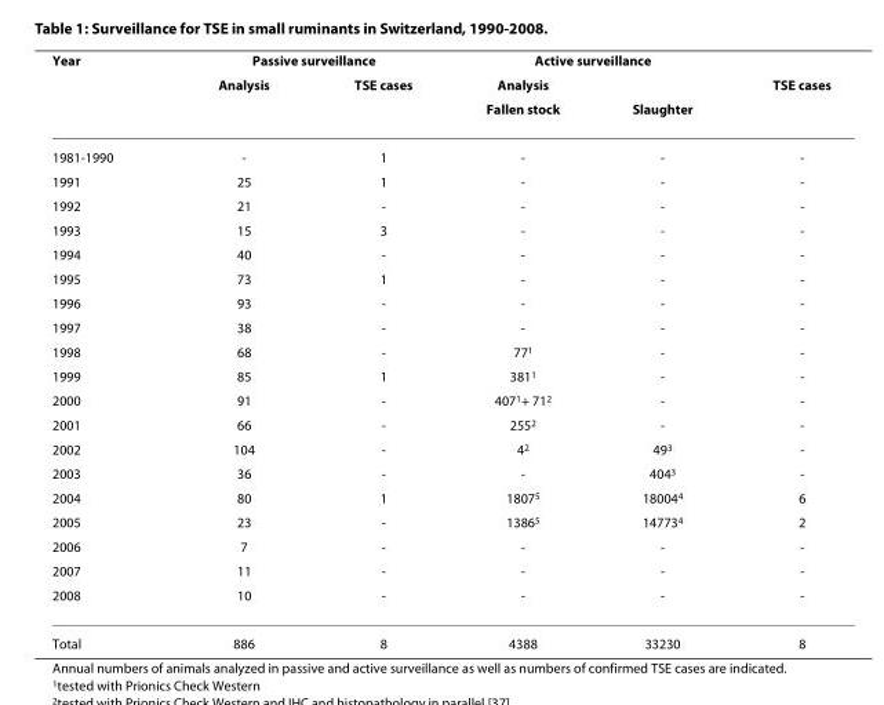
<table><thead><tr><td rowspan="3">Year</td><td colspan="2">Passive surveillance</td><td colspan="2">Active surveillance</td><td rowspan="3">TSE cases</td></tr><tr><td rowspan="2">Analysis</td><td rowspan="2">TSE cases</td><td rowspan="2">Analysis Fallen stock</td><td rowspan="2">Slaughter</td></tr><tr></tr></thead><tbody><tr><td>1981-1990</td><td>-</td><td>1</td><td>-</td><td>-</td><td>-</td></tr><tr><td>1991</td><td>25</td><td>1</td><td>-</td><td>-</td><td>-</td></tr><tr><td>1992</td><td>21</td><td>-</td><td>-</td><td>-</td><td>-</td></tr><tr><td>1993</td><td>15</td><td>3</td><td>-</td><td>-</td><td>-</td></tr><tr><td>1994</td><td>40</td><td>-</td><td>-</td><td>-</td><td>-</td></tr><tr><td>1995</td><td>73</td><td>1</td><td>-</td><td>-</td><td>-</td></tr><tr><td>1996</td><td>93</td><td>-</td><td>-</td><td>-</td><td>-</td></tr><tr><td>1997</td><td>38</td><td>-</td><td>-</td><td>-</td><td>-</td></tr><tr><td>1998</td><td>68</td><td>-</td><td>77<sup>1</sup></td><td>-</td><td>-</td></tr><tr><td>1999</td><td>85</td><td>1</td><td>381<sup>1</sup></td><td>-</td><td>-</td></tr><tr><td>2000</td><td>91</td><td>-</td><td>407<sup>1</sup>+ 71<sup>2</sup></td><td>-</td><td>-</td></tr><tr><td>2001</td><td>66</td><td>-</td><td>255<sup>2</sup></td><td>-</td><td>-</td></tr><tr><td>2002</td><td>104</td><td>-</td><td>4<sup>2</sup></td><td>49<sup>3</sup></td><td>-</td></tr><tr><td>2003</td><td>36</td><td>-</td><td>-</td><td>404<sup>3</sup></td><td>-</td></tr><tr><td>2004</td><td>80</td><td>1</td><td>1807<sup>5</sup></td><td>18004<sup>4</sup></td><td>6</td></tr><tr><td>2005</td><td>23</td><td>-</td><td>1386<sup>5</sup></td><td>14773<sup>4</sup></td><td>2</td></tr><tr><td>2006</td><td>7</td><td>-</td><td>-</td><td>-</td><td>-</td></tr><tr><td>2007</td><td>11</td><td>-</td><td>-</td><td>-</td><td>-</td></tr><tr><td>2008</td><td>10</td><td>-</td><td>-</td><td>-</td><td>-</td></tr><tr><td>Total</td><td>886</td><td>8</td><td>4388</td><td>33230</td><td>8</td></tr></tbody></table>